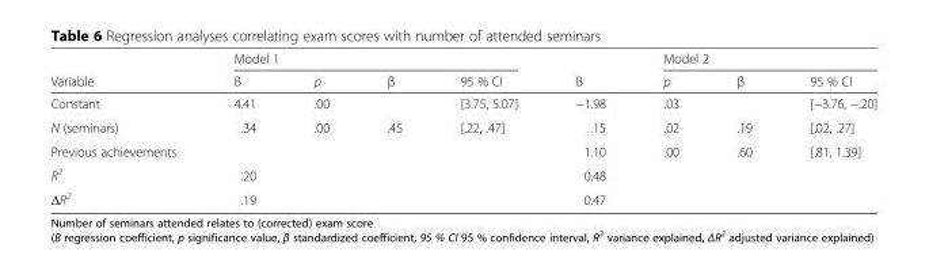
<table><thead><tr><td rowspan="2">Variable</td><td colspan="4">Model 1</td><td rowspan="2">B</td><td colspan="3">Model 2</td></tr><tr><td>B</td><td>p</td><td>β</td><td>95 % CI</td><td>p</td><td>β</td><td>95 % CI</td></tr></thead><tbody><tr><td>Constant</td><td>4.41</td><td>.00</td><td></td><td>[3.75, 5.07]</td><td>−1.98</td><td>.03</td><td></td><td>[−3.76, −.20]</td></tr><tr><td>N (seminars)</td><td>.34</td><td>.00</td><td>.45</td><td>[.22, .47]</td><td>.15</td><td>.02</td><td>.19</td><td>[.02, .27]</td></tr><tr><td>Previous achievements</td><td></td><td></td><td></td><td></td><td>1.10</td><td>.00</td><td>.60</td><td>[.81, 1.39]</td></tr><tr><td>R<sup>2</sup></td><td>.20</td><td></td><td></td><td></td><td>0.48</td><td></td><td></td><td></td></tr><tr><td>ΔR<sup>2</sup></td><td>.19</td><td></td><td></td><td></td><td>0.47</td><td></td><td></td><td></td></tr></tbody></table>